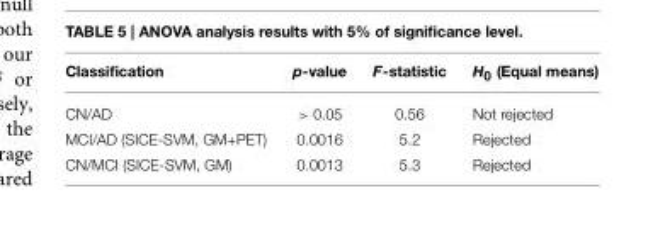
<table><thead><tr><td>Classification</td><td>p-value</td><td>F-statistic</td><td>H<sub>0</sub> (Equal means)</td></tr></thead><tbody><tr><td>CN/AD</td><td>&gt; 0.05</td><td>0.56</td><td>Not rejected</td></tr><tr><td>MCI/AD (SICE-SVM, GM+PET)</td><td>0.0016</td><td>5.2</td><td>Rejected</td></tr><tr><td>CN/MCI (SICE-SVM, GM)</td><td>0.0013</td><td>5.3</td><td>Rejected</td></tr></tbody></table>